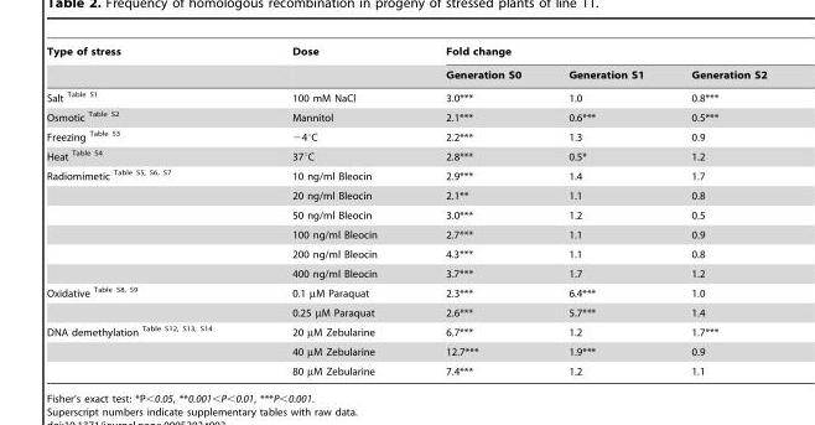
<table><thead><tr><td rowspan="2">Type of stress</td><td rowspan="2">Dose</td><td colspan="3">Fold change</td></tr><tr><td>Generation S0</td><td>Generation S1</td><td>Generation S2</td></tr></thead><tbody><tr><td>Salt <sup>Table S1</sup></td><td>100 mM NaCl</td><td>3.0***</td><td>1.0</td><td>0.8***</td></tr><tr><td>Osmotic <sup>Table S2</sup></td><td>Mannitol</td><td>2.1***</td><td>0.6***</td><td>0.5***</td></tr><tr><td>Freezing <sup>Table S3</sup></td><td>−4°C</td><td>2.2***</td><td>1.3</td><td>0.9</td></tr><tr><td>Heat <sup>Table S4</sup></td><td>37°C</td><td>2.8***</td><td>0.5*</td><td>1.2</td></tr><tr><td rowspan="6">Radiomimetic <sup>Table S5, S6, S7</sup></td><td>10 ng/ml Bleocin</td><td>2.9***</td><td>1.4</td><td>1.7</td></tr><tr><td>20 ng/ml Bleocin</td><td>2.1**</td><td>1.1</td><td>0.8</td></tr><tr><td>50 ng/ml Bleocin</td><td>3.0***</td><td>1.2</td><td>0.5</td></tr><tr><td>100 ng/ml Bleocin</td><td>2.7***</td><td>1.1</td><td>0.9</td></tr><tr><td>200 ng/ml Bleocin</td><td>4.3***</td><td>1.1</td><td>0.8</td></tr><tr><td>400 ng/ml Bleocin</td><td>3.7***</td><td>1.7</td><td>1.2</td></tr><tr><td rowspan="2">Oxidative <sup>Table S8, S9</sup></td><td>0.1 µM Paraquat</td><td>2.3***</td><td>6.4***</td><td>1.0</td></tr><tr><td>0.25 µM Paraquat</td><td>2.6***</td><td>5.7***</td><td>1.4</td></tr><tr><td rowspan="3">DNA demethylation <sup>Table S12, S13, S14</sup></td><td>20 µM Zebularine</td><td>6.7***</td><td>1.2</td><td>1.7***</td></tr><tr><td>40 µM Zebularine</td><td>12.7***</td><td>1.9***</td><td>0.9</td></tr><tr><td>80 µM Zebularine</td><td>7.4***</td><td>1.2</td><td>1.1</td></tr></tbody></table>